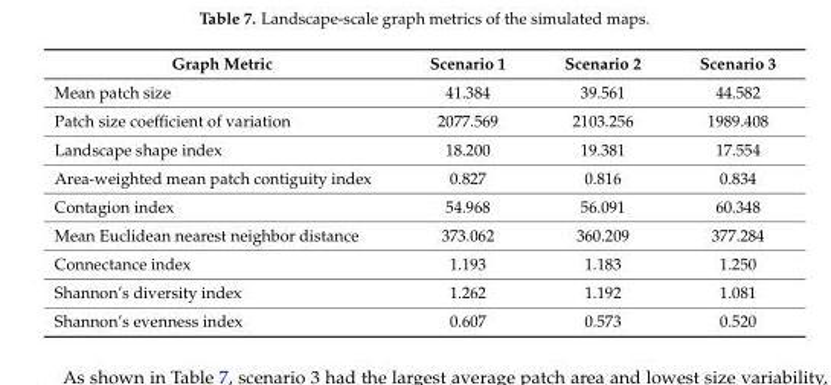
<table><thead><tr><td>Graph Metric</td><td>Scenario 1</td><td>Scenario 2</td><td>Scenario 3</td></tr></thead><tbody><tr><td>Mean patch size</td><td>41.384</td><td>39.561</td><td>44.582</td></tr><tr><td>Patch size coefficient of variation</td><td>2077.569</td><td>2103.256</td><td>1989.408</td></tr><tr><td>Landscape shape index</td><td>18.200</td><td>19.381</td><td>17.554</td></tr><tr><td>Area-weighted mean patch contiguity index</td><td>0.827</td><td>0.816</td><td>0.834</td></tr><tr><td>Contagion index</td><td>54.968</td><td>56.091</td><td>60.348</td></tr><tr><td>Mean Euclidean nearest neighbor distance</td><td>373.062</td><td>360.209</td><td>377.284</td></tr><tr><td>Connectance index</td><td>1.193</td><td>1.183</td><td>1.250</td></tr><tr><td>Shannon’s diversity index</td><td>1.262</td><td>1.192</td><td>1.081</td></tr><tr><td>Shannon’s evenness index</td><td>0.607</td><td>0.573</td><td>0.520</td></tr></tbody></table>